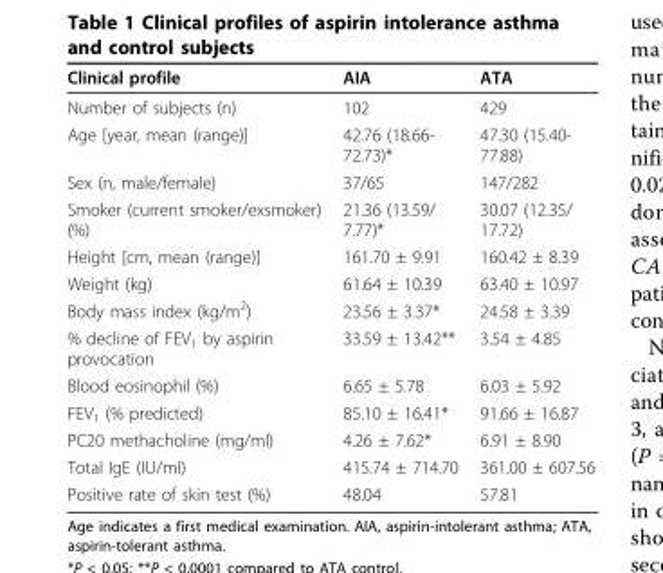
<table><thead><tr><td>Clinical profile</td><td>AIA</td><td>ATA</td></tr></thead><tbody><tr><td>Number of subjects (n)</td><td>102</td><td>429</td></tr><tr><td>Age [year, mean (range)]</td><td>42.76 (18.66- 72.73)*</td><td>47.30 (15.40- 77.88)</td></tr><tr><td>Sex (n, male/female)</td><td>37/65</td><td>147/282</td></tr><tr><td>Smoker (current smoker/exsmoker) (%)</td><td>21.36 (13.59/ 7.77)*</td><td>30.07 (12.35/ 17.72)</td></tr><tr><td>Height [cm, mean (range)]</td><td>161.70 ± 9.91</td><td>160.42 ± 8.39</td></tr><tr><td>Weight (kg)</td><td>61.64 ± 10.39</td><td>63.40 ± 10.97</td></tr><tr><td>Body mass index (kg/m<sup>2</sup>)</td><td>23.56 ± 3.37*</td><td>24.58 ± 3.39</td></tr><tr><td>% decline of FEV<sub>1</sub> by aspirin provocation</td><td>33.59 ± 13.42**</td><td>3.54 ± 4.85</td></tr><tr><td>Blood eosinophil (%)</td><td>6.65 ± 5.78</td><td>6.03 ± 5.92</td></tr><tr><td>FEV<sub>1</sub> (% predicted)</td><td>85.10 ± 16.41*</td><td>91.66 ± 16.87</td></tr><tr><td>PC20 methacholine (mg/ml)</td><td>4.26 ± 7.62*</td><td>6.91 ± 8.90</td></tr><tr><td>Total IgE (IU/ml)</td><td>415.74 ± 714.70</td><td>361.00 ± 607.56</td></tr><tr><td>Positive rate of skin test (%)</td><td>48.04</td><td>57.81</td></tr></tbody></table>